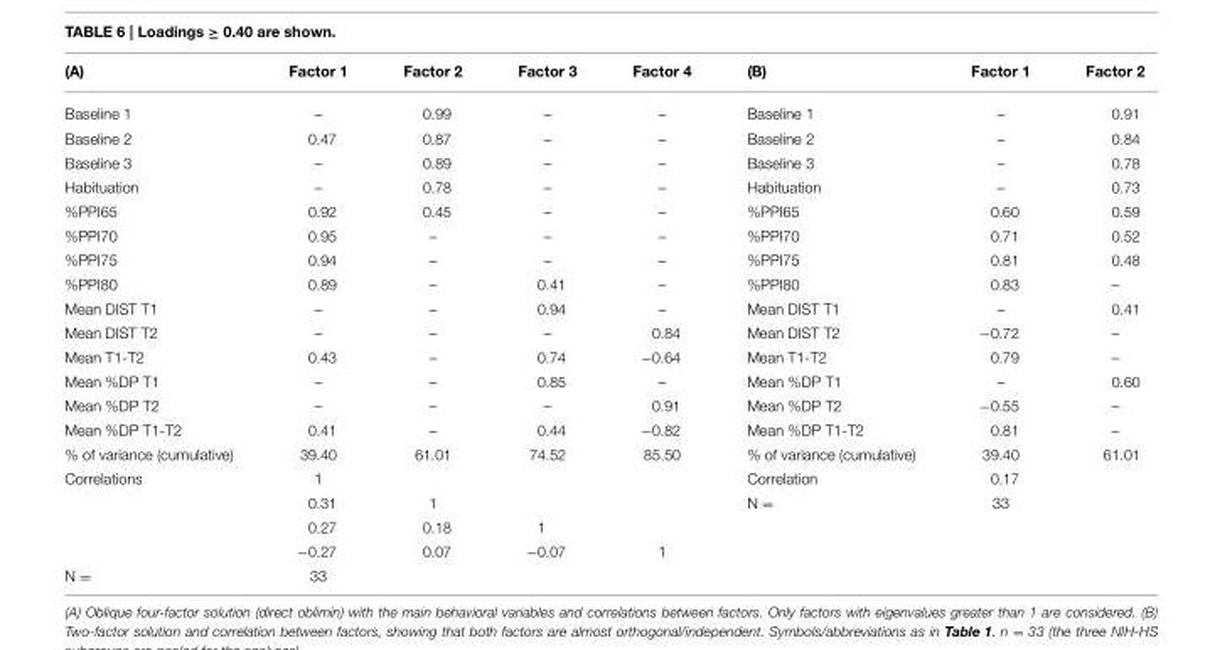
<table><thead><tr><td>(A)</td><td>Factor 1</td><td>Factor 2</td><td>Factor 3</td><td>Factor 4</td><td>(B)</td><td>Factor 1</td><td>Factor 2</td></tr></thead><tbody><tr><td>Baseline 1</td><td>–</td><td>0.99</td><td>–</td><td>–</td><td>Baseline 1</td><td>–</td><td>0.91</td></tr><tr><td>Baseline 2</td><td>0.47</td><td>0.87</td><td>–</td><td>–</td><td>Baseline 2</td><td>–</td><td>0.84</td></tr><tr><td>Baseline 3</td><td>–</td><td>0.89</td><td>–</td><td>–</td><td>Baseline 3</td><td>–</td><td>0.78</td></tr><tr><td>Habituation</td><td>–</td><td>0.78</td><td>–</td><td>–</td><td>Habituation</td><td>–</td><td>0.73</td></tr><tr><td>%PPI65</td><td>0.92</td><td>0.45</td><td>–</td><td>–</td><td>%PPI65</td><td>0.60</td><td>0.59</td></tr><tr><td>%PPI70</td><td>0.95</td><td>–</td><td>–</td><td>–</td><td>%PPI70</td><td>0.71</td><td>0.52</td></tr><tr><td>%PPI75</td><td>0.94</td><td>–</td><td>–</td><td>–</td><td>%PPI75</td><td>0.81</td><td>0.48</td></tr><tr><td>%PPI80</td><td>0.89</td><td>–</td><td>0.41</td><td>–</td><td>%PPI80</td><td>0.83</td><td>–</td></tr><tr><td>Mean DIST T1</td><td>–</td><td>–</td><td>0.94</td><td>–</td><td>Mean DIST T1</td><td>–</td><td>0.41</td></tr><tr><td>Mean DIST T2</td><td>–</td><td>–</td><td>–</td><td>0.84</td><td>Mean DIST T2</td><td>−0.72</td><td>–</td></tr><tr><td>Mean T1-T2</td><td>0.43</td><td>–</td><td>0.74</td><td>−0.64</td><td>Mean T1-T2</td><td>0.79</td><td>–</td></tr><tr><td>Mean %DP T1</td><td>–</td><td>–</td><td>0.85</td><td>–</td><td>Mean %DP T1</td><td>–</td><td>0.60</td></tr><tr><td>Mean %DP T2</td><td>–</td><td>–</td><td>–</td><td>0.91</td><td>Mean %DP T2</td><td>−0.55</td><td>–</td></tr><tr><td>Mean %DP T1-T2</td><td>0.41</td><td>–</td><td>0.44</td><td>−0.82</td><td>Mean %DP T1-T2</td><td>0.81</td><td>–</td></tr><tr><td>% of variance (cumulative)</td><td>39.40</td><td>61.01</td><td>74.52</td><td>85.50</td><td>% of variance (cumulative)</td><td>39.40</td><td>61.01</td></tr><tr><td rowspan="4">Correlations</td><td>1</td><td></td><td></td><td></td><td>Correlation</td><td>0.17</td><td></td></tr><tr><td>0.31</td><td>1</td><td></td><td></td><td>N =</td><td>33</td><td></td></tr><tr><td>0.27</td><td>0.18</td><td>1</td><td></td><td></td><td></td><td></td></tr><tr><td>−0.27</td><td>0.07</td><td>−0.07</td><td>1</td><td></td><td></td><td></td></tr><tr><td>N =</td><td>33</td><td></td><td></td><td></td><td></td><td></td><td></td></tr></tbody></table>